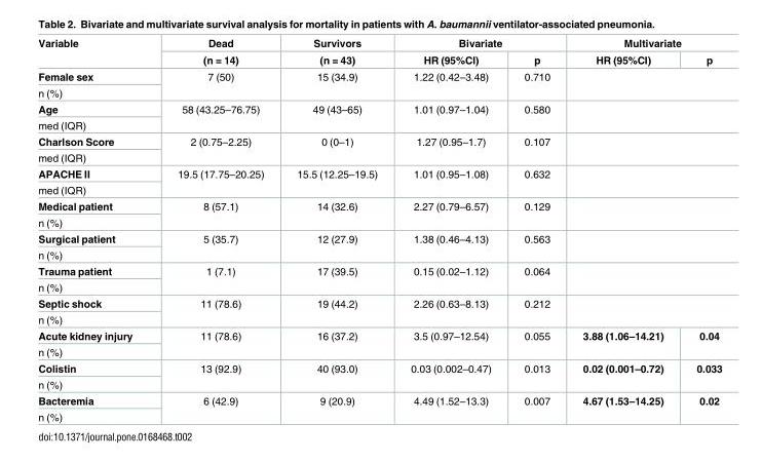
<table><thead><tr><td rowspan="2">Variable</td><td rowspan="2">Dead (n = 14)</td><td rowspan="2">Survivors (n = 43)</td><td colspan="2">Bivariate</td><td colspan="2">Multivariate</td></tr><tr><td>HR (95%CI)</td><td>p</td><td>HR (95%CI)</td><td>p</td></tr></thead><tbody><tr><td>Female sex</td><td rowspan="2">7 (50)</td><td rowspan="2">15 (34.9)</td><td rowspan="2">1.22 (0.42–3.48)</td><td rowspan="2">0.710</td><td rowspan="2" colspan="2"></td></tr><tr><td>n (%)</td></tr><tr><td>Age</td><td rowspan="2">58 (43.25–76.75)</td><td rowspan="2">49 (43–65)</td><td rowspan="2">1.01 (0.97–1.04)</td><td rowspan="2">0.580</td><td rowspan="2" colspan="2"></td></tr><tr><td>med (IQR)</td></tr><tr><td>Charlson Score</td><td rowspan="2">2 (0.75–2.25)</td><td rowspan="2">0 (0–1)</td><td rowspan="2">1.27 (0.95–1.7)</td><td rowspan="2">0.107</td><td rowspan="2" colspan="2"></td></tr><tr><td>med (IQR)</td></tr><tr><td>APACHE II</td><td rowspan="2">19.5 (17.75–20.25)</td><td rowspan="2">15.5 (12.25–19.5)</td><td rowspan="2">1.01 (0.95–1.08)</td><td rowspan="2">0.632</td><td rowspan="2" colspan="2"></td></tr><tr><td>med (IQR)</td></tr><tr><td>Medical patient</td><td rowspan="2">8 (57.1)</td><td rowspan="2">14 (32.6)</td><td rowspan="2">2.27 (0.79–6.57)</td><td rowspan="2">0.129</td><td rowspan="2" colspan="2"></td></tr><tr><td>n (%)</td></tr><tr><td>Surgical patient</td><td rowspan="2">5 (35.7)</td><td rowspan="2">12 (27.9)</td><td rowspan="2">1.38 (0.46–4.13)</td><td rowspan="2">0.563</td><td rowspan="2" colspan="2"></td></tr><tr><td>n (%)</td></tr><tr><td>Trauma patient</td><td rowspan="2">1 (7.1)</td><td rowspan="2">17 (39.5)</td><td rowspan="2">0.15 (0.02–1.12)</td><td rowspan="2">0.064</td><td rowspan="2" colspan="2"></td></tr><tr><td>n (%)</td></tr><tr><td>Septic shock</td><td rowspan="2">11 (78.6)</td><td rowspan="2">19 (44.2)</td><td rowspan="2">2.26 (0.63–8.13)</td><td rowspan="2">0.212</td><td rowspan="2" colspan="2"></td></tr><tr><td>n (%)</td></tr><tr><td>Acute kidney injury</td><td rowspan="2">11 (78.6)</td><td rowspan="2">16 (37.2)</td><td rowspan="2">3.5 (0.97–12.54)</td><td rowspan="2">0.055</td><td rowspan="2">3.88 (1.06–14.21)</td><td rowspan="2">0.04</td></tr><tr><td>n (%)</td></tr><tr><td>Colistin</td><td rowspan="2">13 (92.9)</td><td rowspan="2">40 (93.0)</td><td rowspan="2">0.03 (0.002–0.47)</td><td rowspan="2">0.013</td><td rowspan="2">0.02 (0.001–0.72)</td><td rowspan="2">0.033</td></tr><tr><td>n (%)</td></tr><tr><td>Bacteremia</td><td rowspan="2">6 (42.9)</td><td rowspan="2">9 (20.9)</td><td rowspan="2">4.49 (1.52–13.3)</td><td rowspan="2">0.007</td><td rowspan="2">4.67 (1.53–14.25)</td><td rowspan="2">0.02</td></tr><tr><td>n (%)</td></tr></tbody></table>